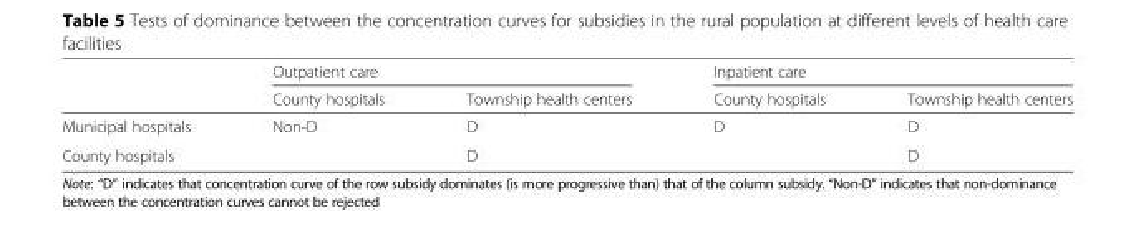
<table><thead><tr><td rowspan="2"></td><td colspan="2">Outpatient care</td><td colspan="2">Inpatient care</td></tr><tr><td>County hospitals</td><td>Township health centers</td><td>County hospitals</td><td>Township health centers</td></tr></thead><tbody><tr><td>Municipal hospitals</td><td>Non-D</td><td>D</td><td>D</td><td>D</td></tr><tr><td>County hospitals</td><td></td><td>D</td><td></td><td>D</td></tr></tbody></table>